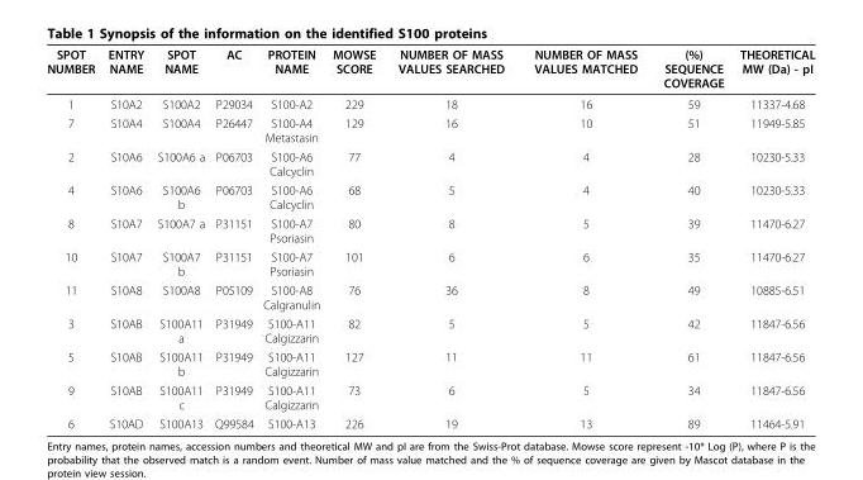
<table><thead><tr><td>SPOT NUMBER</td><td>ENTRY NAME</td><td>SPOT NAME</td><td>AC</td><td>PROTEIN NAME</td><td>MOWSE SCORE</td><td>NUMBER OF MASS VALUES SEARCHED</td><td>NUMBER OF MASS VALUES MATCHED</td><td>(%) SEQUENCE COVERAGE</td><td>THEORETICAL MW (Da) - pI</td></tr></thead><tbody><tr><td>1</td><td>S10A2</td><td>S100A2</td><td>P29034</td><td>S100-A2</td><td>229</td><td>18</td><td>16</td><td>59</td><td>11337-4.68</td></tr><tr><td>7</td><td>S10A4</td><td>S100A4</td><td>P26447</td><td>S100-A4 Metastasin</td><td>129</td><td>16</td><td>10</td><td>51</td><td>11949-5.85</td></tr><tr><td>2</td><td>S10A6</td><td>S100A6 a</td><td>P06703</td><td>S100-A6 Calcyclin</td><td>77</td><td>4</td><td>4</td><td>28</td><td>10230-5.33</td></tr><tr><td>4</td><td>S10A6</td><td>S100A6 b</td><td>P06703</td><td>S100-A6 Calcyclin</td><td>68</td><td>5</td><td>4</td><td>40</td><td>10230-5.33</td></tr><tr><td>8</td><td>S10A7</td><td>S100A7 a</td><td>P31151</td><td>S100-A7 Psoriasin</td><td>80</td><td>8</td><td>5</td><td>39</td><td>11470-6.27</td></tr><tr><td>10</td><td>S10A7</td><td>S100A7 b</td><td>P31151</td><td>S100-A7 Psoriasin</td><td>101</td><td>6</td><td>6</td><td>35</td><td>11470-6.27</td></tr><tr><td>11</td><td>S10A8</td><td>S100A8</td><td>P05109</td><td>S100-A8 Calgranulin</td><td>76</td><td>36</td><td>8</td><td>49</td><td>10885-6.51</td></tr><tr><td>3</td><td>S10AB</td><td>S100A11 a</td><td>P31949</td><td>S100-A11 Calgizzarin</td><td>82</td><td>5</td><td>5</td><td>42</td><td>11847-6.56</td></tr><tr><td>5</td><td>S10AB</td><td>S100A11 b</td><td>P31949</td><td>S100-A11 Calgizzarin</td><td>127</td><td>11</td><td>11</td><td>61</td><td>11847-6.56</td></tr><tr><td>9</td><td>S10AB</td><td>S100A11 c</td><td>P31949</td><td>S100-A11 Calgizzarin</td><td>73</td><td>6</td><td>5</td><td>34</td><td>11847-6.56</td></tr><tr><td>6</td><td>S10AD</td><td>S100A13</td><td>Q99584</td><td>S100-A13</td><td>226</td><td>19</td><td>13</td><td>89</td><td>11464-5.91</td></tr></tbody></table>